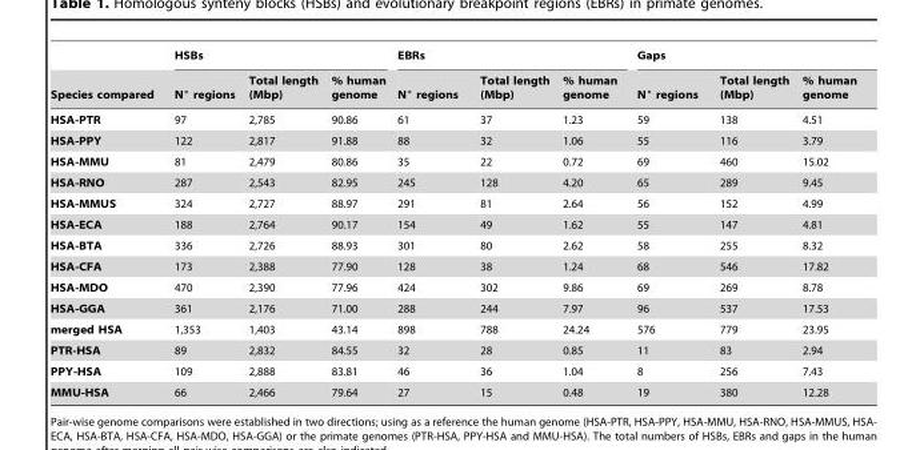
<table><thead><tr><td rowspan="2">Species compared</td><td colspan="3">HSBs</td><td colspan="3">EBRs</td><td colspan="3">Gaps</td></tr><tr><td>N° regions</td><td>Total length (Mbp)</td><td>% human genome</td><td>N° regions</td><td>Total length (Mbp)</td><td>% human genome</td><td>N° regions</td><td>Total length (Mbp)</td><td>% human genome</td></tr></thead><tbody><tr><td>HSA-PTR</td><td>97</td><td>2,785</td><td>90.86</td><td>61</td><td>37</td><td>1.23</td><td>59</td><td>138</td><td>4.51</td></tr><tr><td>HSA-PPY</td><td>122</td><td>2,817</td><td>91.88</td><td>88</td><td>32</td><td>1.06</td><td>55</td><td>116</td><td>3.79</td></tr><tr><td>HSA-MMU</td><td>81</td><td>2,479</td><td>80.86</td><td>35</td><td>22</td><td>0.72</td><td>69</td><td>460</td><td>15.02</td></tr><tr><td>HSA-RNO</td><td>287</td><td>2,543</td><td>82.95</td><td>245</td><td>128</td><td>4.20</td><td>65</td><td>289</td><td>9.45</td></tr><tr><td>HSA-MMUS</td><td>324</td><td>2,727</td><td>88.97</td><td>291</td><td>81</td><td>2.64</td><td>56</td><td>152</td><td>4.99</td></tr><tr><td>HSA-ECA</td><td>188</td><td>2,764</td><td>90.17</td><td>154</td><td>49</td><td>1.62</td><td>55</td><td>147</td><td>4.81</td></tr><tr><td>HSA-BTA</td><td>336</td><td>2,726</td><td>88.93</td><td>301</td><td>80</td><td>2.62</td><td>58</td><td>255</td><td>8.32</td></tr><tr><td>HSA-CFA</td><td>173</td><td>2,388</td><td>77.90</td><td>128</td><td>38</td><td>1.24</td><td>68</td><td>546</td><td>17.82</td></tr><tr><td>HSA-MDO</td><td>470</td><td>2,390</td><td>77.96</td><td>424</td><td>302</td><td>9.86</td><td>69</td><td>269</td><td>8.78</td></tr><tr><td>HSA-GGA</td><td>361</td><td>2,176</td><td>71.00</td><td>288</td><td>244</td><td>7.97</td><td>96</td><td>537</td><td>17.53</td></tr><tr><td>merged HSA</td><td>1,353</td><td>1,403</td><td>43.14</td><td>898</td><td>788</td><td>24.24</td><td>576</td><td>779</td><td>23.95</td></tr><tr><td>PTR-HSA</td><td>89</td><td>2,832</td><td>84.55</td><td>32</td><td>28</td><td>0.85</td><td>11</td><td>83</td><td>2.94</td></tr><tr><td>PPY-HSA</td><td>109</td><td>2,888</td><td>83.81</td><td>46</td><td>36</td><td>1.04</td><td>8</td><td>256</td><td>7.43</td></tr><tr><td>MMU-HSA</td><td>66</td><td>2,466</td><td>79.64</td><td>27</td><td>15</td><td>0.48</td><td>19</td><td>380</td><td>12.28</td></tr></tbody></table>